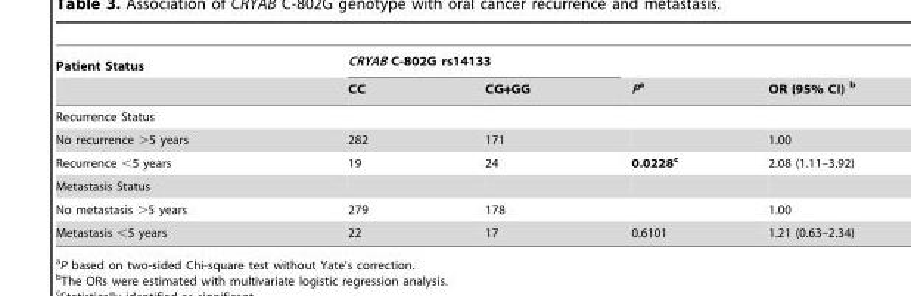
<table><thead><tr><td rowspan="2">Patient Status</td><td colspan="2">CRYAB C-802G rs14133</td><td rowspan="2">Pa</td><td rowspan="2">OR (95% CI) b</td></tr><tr><td>CC</td><td>CG+GG</td></tr></thead><tbody><tr><td colspan="5">Recurrence Status</td></tr><tr><td>No recurrence &gt;5 years</td><td>282</td><td>171</td><td></td><td>1.00</td></tr><tr><td>Recurrence &lt;5 years</td><td>19</td><td>24</td><td>0.0228c</td><td>2.08 (1.11–3.92)</td></tr><tr><td colspan="5">Metastasis Status</td></tr><tr><td>No metastasis &gt;5 years</td><td>279</td><td>178</td><td></td><td>1.00</td></tr><tr><td>Metastasis &lt;5 years</td><td>22</td><td>17</td><td>0.6101</td><td>1.21 (0.63–2.34)</td></tr></tbody></table>